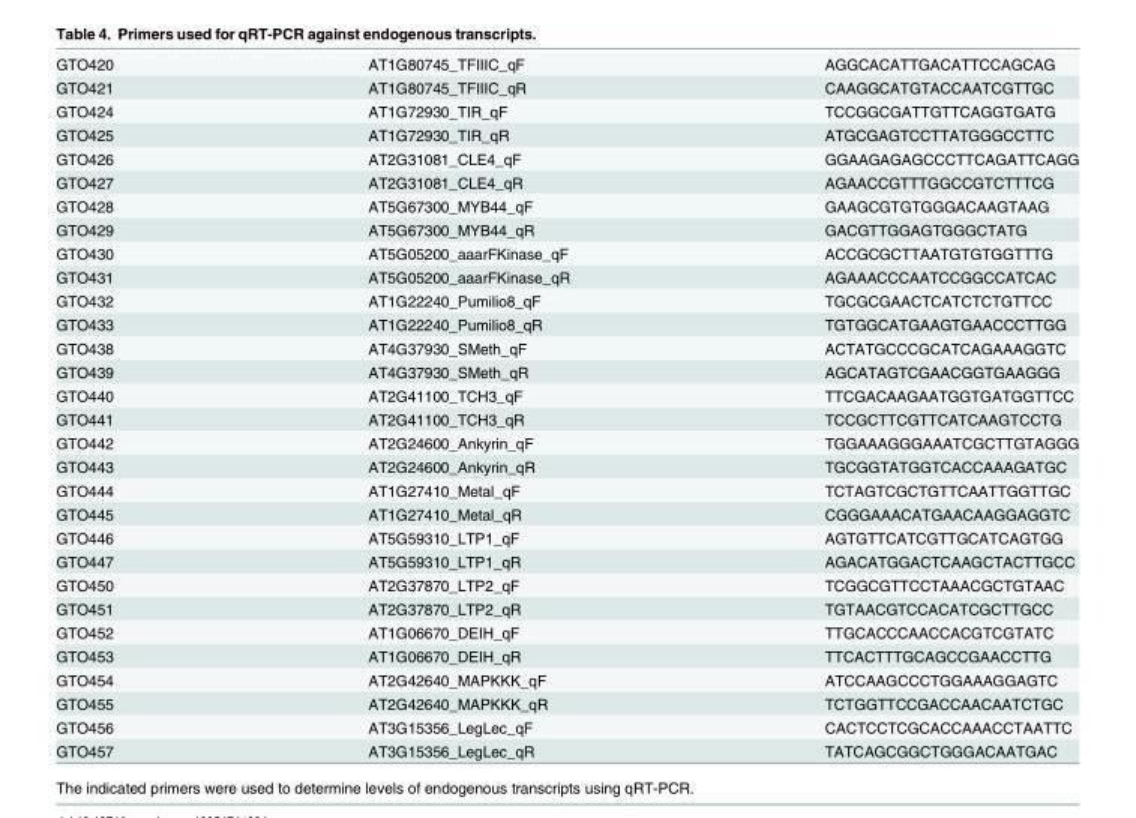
<table><tbody><tr><td>GTO420</td><td>AT1G80745_TFIIIC_qF</td><td>AGGCACATTGACATTCCAGCAG</td></tr><tr><td>GTO421</td><td>AT1G80745_TFIIIC_qR</td><td>CAAGGCATGTACCAATCGTTGC</td></tr><tr><td>GTO424</td><td>AT1G72930_TIR_qF</td><td>TCCGGCGATTGTTCAGGTGATG</td></tr><tr><td>GTO425</td><td>AT1G72930_TIR_qR</td><td>ATGCGAGTCCTTATGGGCCTTC</td></tr><tr><td>GTO426</td><td>AT2G31081_CLE4_qF</td><td>GGAAGAGAGCCCTTCAGATTCAGG</td></tr><tr><td>GTO427</td><td>AT2G31081_CLE4_qR</td><td>AGAACCGTTTGGCCGTCTTTCG</td></tr><tr><td>GTO428</td><td>AT5G67300_MYB44_qF</td><td>GAAGCGTGTGGGACAAGTAAG</td></tr><tr><td>GTO429</td><td>AT5G67300_MYB44_qR</td><td>GACGTTGGAGTGGGCTATG</td></tr><tr><td>GTO430</td><td>AT5G05200_aaarFKinase_qF</td><td>ACCGCGCTTAATGTGTGGTTTG</td></tr><tr><td>GTO431</td><td>AT5G05200_aaarFKinase_qR</td><td>AGAAACCCAATCCGGCCATCAC</td></tr><tr><td>GTO432</td><td>AT1G22240_Pumilio8_qF</td><td>TGCGCGAACTCATCTCTGTTCC</td></tr><tr><td>GTO433</td><td>AT1G22240_Pumilio8_qR</td><td>TGTGGCATGAAGTGAACCCTTGG</td></tr><tr><td>GTO438</td><td>AT4G37930_SMeth_qF</td><td>ACTATGCCCGCATCAGAAAGGTC</td></tr><tr><td>GTO439</td><td>AT4G37930_SMeth_qR</td><td>AGCATAGTCGAACGGTGAAGGG</td></tr><tr><td>GTO440</td><td>AT2G41100_TCH3_qF</td><td>TTCGACAAGAATGGTGATGGTTCC</td></tr><tr><td>GTO441</td><td>AT2G41100_TCH3_qR</td><td>TCCGCTTCGTTCATCAAGTCCTG</td></tr><tr><td>GTO442</td><td>AT2G24600_Ankyrin_qF</td><td>TGGAAAGGGAAATCGCTTGTAGGG</td></tr><tr><td>GTO443</td><td>AT2G24600_Ankyrin_qR</td><td>TGCGGTATGGTCACCAAAGATGC</td></tr><tr><td>GTO444</td><td>AT1G27410_Metal_qF</td><td>TCTAGTCGCTGTTCAATTGGTTGC</td></tr><tr><td>GTO445</td><td>AT1G27410_Metal_qR</td><td>CGGGAAACATGAACAAGGAGGTC</td></tr><tr><td>GTO446</td><td>AT5G59310_LTP1_qF</td><td>AGTGTTCATCGTTGCATCAGTGG</td></tr><tr><td>GTO447</td><td>AT5G59310_LTP1_qR</td><td>AGACATGGACTCAAGCTACTTGCC</td></tr><tr><td>GTO450</td><td>AT2G37870_LTP2_qF</td><td>TCGGCGTTCCTAAACGCTGTAAC</td></tr><tr><td>GTO451</td><td>AT2G37870_LTP2_qR</td><td>TGTAACGTCCACATCGCTTGCC</td></tr><tr><td>GTO452</td><td>AT1G06670_DEIH_qF</td><td>TTGCACCCAACCACGTCGTATC</td></tr><tr><td>GTO453</td><td>AT1G06670_DEIH_qR</td><td>TTCACTTTGCAGCCGAACCTTG</td></tr><tr><td>GTO454</td><td>AT2G42640_MAPKKK_qF</td><td>ATCCAAGCCCTGGAAAGGAGTC</td></tr><tr><td>GTO455</td><td>AT2G42640_MAPKKK_qR</td><td>TCTGGTTCCGACCAACAATCTGC</td></tr><tr><td>GTO456</td><td>AT3G15356_LegLec_qF</td><td>CACTCCTCGCACCAAACCTAATTC</td></tr><tr><td>GTO457</td><td>AT3G15356_LegLec_qR</td><td>TATCAGCGGCTGGGACAATGAC</td></tr></tbody></table>